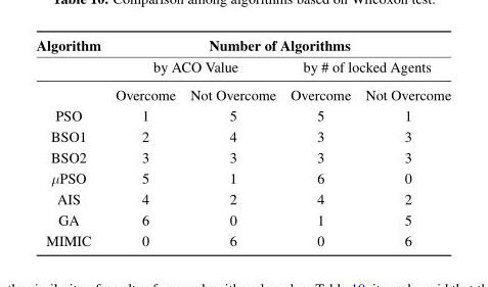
<table><thead><tr><td rowspan="3">Algorithm</td><td colspan="4">Number of Algorithms</td></tr><tr><td colspan="2">by ACO Value</td><td colspan="2">by # of locked Agents</td></tr><tr><td>Overcome</td><td>Not Overcome</td><td>Overcome</td><td>Not Overcome</td></tr></thead><tbody><tr><td>PSO</td><td>1</td><td>5</td><td>5</td><td>1</td></tr><tr><td>BSO1</td><td>2</td><td>4</td><td>3</td><td>3</td></tr><tr><td>BSO2</td><td>3</td><td>3</td><td>3</td><td>3</td></tr><tr><td>µPSO</td><td>5</td><td>1</td><td>6</td><td>0</td></tr><tr><td>AIS</td><td>4</td><td>2</td><td>4</td><td>2</td></tr><tr><td>GA</td><td>6</td><td>0</td><td>1</td><td>5</td></tr><tr><td>MIMIC</td><td>0</td><td>6</td><td>0</td><td>6</td></tr></tbody></table>